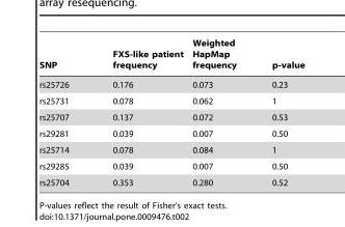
<table><thead><tr><td>SNP</td><td>FXS-like patient frequency</td><td>Weighted HapMap frequency</td><td>p-value</td></tr></thead><tbody><tr><td>rs25726</td><td>0.176</td><td>0.073</td><td>0.23</td></tr><tr><td>rs25731</td><td>0.078</td><td>0.062</td><td>1</td></tr><tr><td>rs25707</td><td>0.137</td><td>0.072</td><td>0.53</td></tr><tr><td>rs29281</td><td>0.039</td><td>0.007</td><td>0.50</td></tr><tr><td>rs25714</td><td>0.078</td><td>0.084</td><td>1</td></tr><tr><td>rs29285</td><td>0.039</td><td>0.007</td><td>0.50</td></tr><tr><td>rs25704</td><td>0.353</td><td>0.280</td><td>0.52</td></tr></tbody></table>